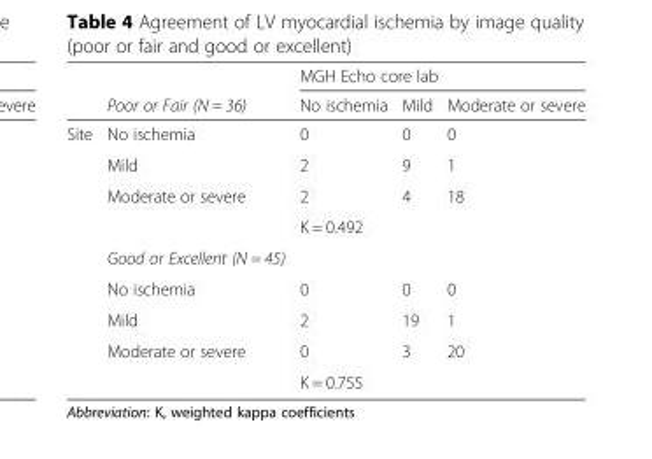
<table><thead><tr><td rowspan="2"></td><td rowspan="2">Poor or Fair (N = 36)</td><td colspan="3">MGH Echo core lab</td></tr><tr><td>No ischemia</td><td>Mild</td><td>Moderate or severe</td></tr></thead><tbody><tr><td rowspan="9">Site</td><td>No ischemia</td><td>0</td><td>0</td><td>0</td></tr><tr><td>Mild</td><td>2</td><td>9</td><td>1</td></tr><tr><td>Moderate or severe</td><td>2</td><td>4</td><td>18</td></tr><tr><td></td><td colspan="3">K = 0.492</td></tr><tr><td>Good or Excellent (N = 45)</td><td></td><td></td><td></td></tr><tr><td>No ischemia</td><td>0</td><td>0</td><td>0</td></tr><tr><td>Mild</td><td>2</td><td>19</td><td>1</td></tr><tr><td>Moderate or severe</td><td>0</td><td>3</td><td>20</td></tr><tr><td></td><td colspan="3">K = 0.755</td></tr></tbody></table>